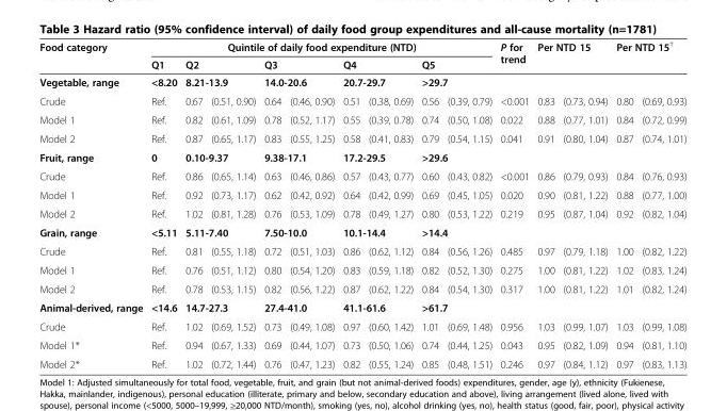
<table><thead><tr><td rowspan="4">Food category Vegetable, range Crude</td><td colspan="9">Quintile of daily food expenditure (NTD)</td><td rowspan="4">P for trend &lt;0.001</td><td rowspan="2" colspan="2">Per NTD 15</td><td rowspan="2" colspan="2">Per NTD 15<sup>†</sup></td></tr><tr><td rowspan="3">Q1 &lt;8.20 Ref.</td><td rowspan="2" colspan="2">Q2 8.21-13.9</td><td rowspan="2" colspan="2">Q3 14.0-20.6</td><td rowspan="2" colspan="2">Q4 20.7-29.7</td><td rowspan="2" colspan="2">Q5 &gt;29.7</td></tr><tr><td rowspan="2">0.83</td><td rowspan="2">(0.73, 0.94)</td><td rowspan="2">0.80</td><td rowspan="2">(0.69, 0.93)</td></tr><tr><td>0.67</td><td>(0.51, 0.90)</td><td>0.64</td><td>(0.46, 0.90)</td><td>0.51</td><td>(0.38, 0.69)</td><td>0.56</td><td>(0.39, 0.79)</td></tr></thead><tbody><tr><td>Model 1</td><td>Ref.</td><td>0.82</td><td>(0.61, 1.09)</td><td>0.78</td><td>(0.52, 1.17)</td><td>0.55</td><td>(0.39, 0.78)</td><td>0.74</td><td>(0.50, 1.08)</td><td>0.022</td><td>0.88</td><td>(0.77, 1.01)</td><td>0.84</td><td>(0.72, 0.99)</td></tr><tr><td>Model 2</td><td>Ref.</td><td>0.87</td><td>(0.65, 1.17)</td><td>0.83</td><td>(0.55, 1.25)</td><td>0.58</td><td>(0.41, 0.83)</td><td>0.79</td><td>(0.54, 1.15)</td><td>0.041</td><td>0.91</td><td>(0.80, 1.04)</td><td>0.87</td><td>(0.74, 1.01)</td></tr><tr><td>Fruit, range</td><td>0</td><td colspan="2">0.10-9.37</td><td colspan="2">9.38-17.1</td><td colspan="2">17.2-29.5</td><td colspan="2">&gt;29.6</td><td></td><td></td><td></td><td></td><td></td></tr><tr><td>Crude</td><td>Ref.</td><td>0.86</td><td>(0.65, 1.14)</td><td>0.63</td><td>(0.46, 0.86)</td><td>0.57</td><td>(0.43, 0.77)</td><td>0.60</td><td>(0.43, 0.82)</td><td>&lt;0.001</td><td>0.86</td><td>(0.79, 0.93)</td><td>0.84</td><td>(0.76, 0.93)</td></tr><tr><td>Model 1</td><td>Ref.</td><td>0.92</td><td>(0.73, 1.17)</td><td>0.62</td><td>(0.42, 0.92)</td><td>0.64</td><td>(0.42, 0.99)</td><td>0.69</td><td>(0.45, 1.05)</td><td>0.020</td><td>0.90</td><td>(0.81, 1.22)</td><td>0.88</td><td>(0.77, 1.00)</td></tr><tr><td>Model 2</td><td>Ref.</td><td>1.02</td><td>(0.81, 1.28)</td><td>0.76</td><td>(0.53, 1.09)</td><td>0.78</td><td>(0.49, 1.27)</td><td>0.80</td><td>(0.53, 1.22)</td><td>0.219</td><td>0.95</td><td>(0.87, 1.04)</td><td>0.92</td><td>(0.82, 1.04)</td></tr><tr><td>Grain, range</td><td>&lt;5.11</td><td colspan="2">5.11-7.40</td><td colspan="2">7.50-10.0</td><td colspan="2">10.1-14.4</td><td colspan="2">&gt;14.4</td><td></td><td></td><td></td><td></td><td></td></tr><tr><td>Crude</td><td>Ref.</td><td>0.81</td><td>(0.55, 1.18)</td><td>0.72</td><td>(0.51, 1.03)</td><td>0.86</td><td>(0.62, 1.12)</td><td>0.84</td><td>(0.56, 1.26)</td><td>0.485</td><td>0.97</td><td>(0.79, 1.18)</td><td>1.00</td><td>(0.82, 1.22)</td></tr><tr><td>Model 1</td><td>Ref.</td><td>0.76</td><td>(0.51, 1.12)</td><td>0.80</td><td>(0.54, 1.20)</td><td>0.83</td><td>(0.59, 1.18)</td><td>0.82</td><td>(0.52, 1.30)</td><td>0.275</td><td>1.00</td><td>(0.81, 1.22)</td><td>1.02</td><td>(0.83, 1.24)</td></tr><tr><td>Model 2</td><td>Ref.</td><td>0.78</td><td>(0.53, 1.15)</td><td>0.82</td><td>(0.56, 1.22)</td><td>0.87</td><td>(0.62, 1.22)</td><td>0.84</td><td>(0.54, 1.30)</td><td>0.317</td><td>1.00</td><td>(0.81, 1.22)</td><td>1.01</td><td>(0.82, 1.24)</td></tr><tr><td>Animal-derived, range</td><td>&lt;14.6</td><td colspan="2">14.7-27.3</td><td colspan="2">27.4-41.0</td><td colspan="2">41.1-61.6</td><td colspan="2">&gt;61.7</td><td></td><td></td><td></td><td></td><td></td></tr><tr><td>Crude</td><td>Ref.</td><td>1.02</td><td>(0.69, 1.52)</td><td>0.73</td><td>(0.49, 1.08)</td><td>0.97</td><td>(0.60, 1.42)</td><td>1.01</td><td>(0.69, 1.48)</td><td>0.956</td><td>1.03</td><td>(0.99, 1.07)</td><td>1.03</td><td>(0.99, 1.08)</td></tr><tr><td>Model 1*</td><td>Ref.</td><td>0.94</td><td>(0.67, 1.33)</td><td>0.69</td><td>(0.44, 1.07)</td><td>0.73</td><td>(0.50, 1.06)</td><td>0.74</td><td>(0.44, 1.25)</td><td>0.043</td><td>0.95</td><td>(0.82, 1.09)</td><td>0.94</td><td>(0.81, 1.10)</td></tr><tr><td>Model 2*</td><td>Ref.</td><td>1.02</td><td>(0.72, 1.44)</td><td>0.76</td><td>(0.47, 1.23)</td><td>0.82</td><td>(0.55, 1.24)</td><td>0.85</td><td>(0.48, 1.51)</td><td>0.246</td><td>0.97</td><td>(0.84, 1.12)</td><td>0.97</td><td>(0.83, 1.13)</td></tr></tbody></table>